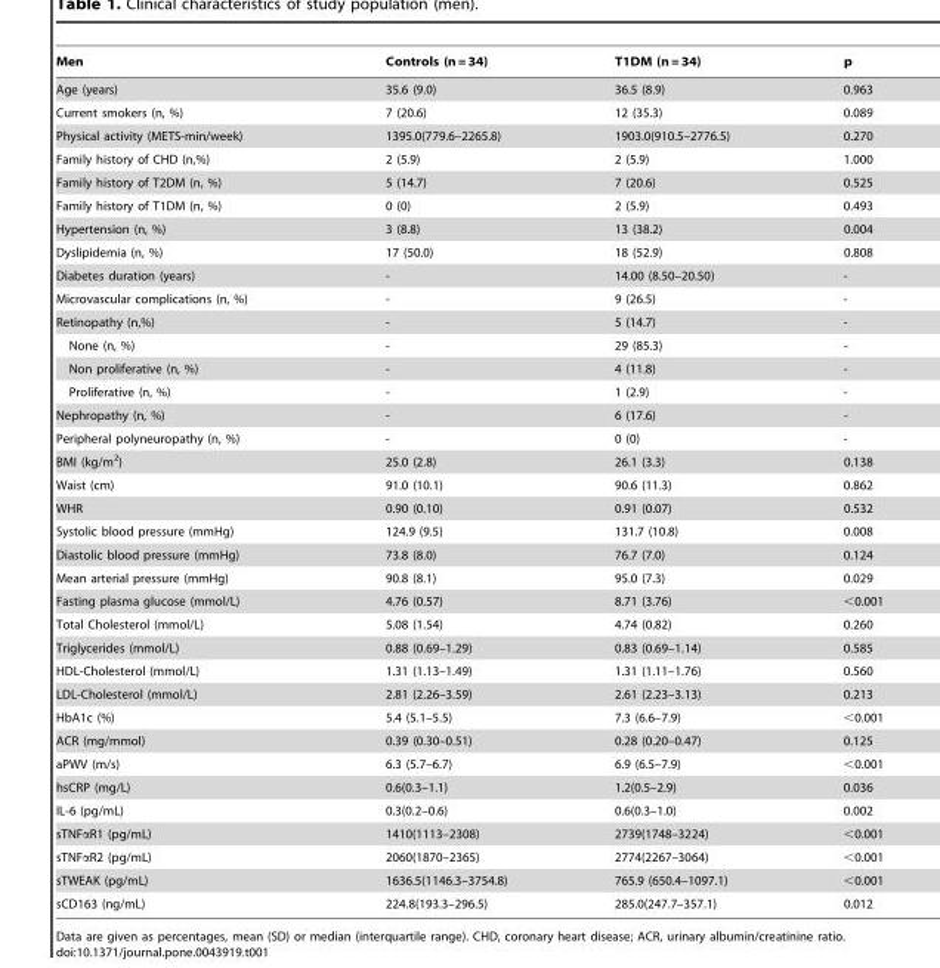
<table><thead><tr><td>Men</td><td>Controls (n = 34)</td><td>T1DM (n = 34)</td><td>p</td></tr></thead><tbody><tr><td>Age (years)</td><td>35.6 (9.0)</td><td>36.5 (8.9)</td><td>0.963</td></tr><tr><td>Current smokers (n, %)</td><td>7 (20.6)</td><td>12 (35.3)</td><td>0.089</td></tr><tr><td>Physical activity (METS-min/week)</td><td>1395.0(779.6–2265.8)</td><td>1903.0(910.5–2776.5)</td><td>0.270</td></tr><tr><td>Family history of CHD (n,%)</td><td>2 (5.9)</td><td>2 (5.9)</td><td>1.000</td></tr><tr><td>Family history of T2DM (n, %)</td><td>5 (14.7)</td><td>7 (20.6)</td><td>0.525</td></tr><tr><td>Family history of T1DM (n, %)</td><td>0 (0)</td><td>2 (5.9)</td><td>0.493</td></tr><tr><td>Hypertension (n, %)</td><td>3 (8.8)</td><td>13 (38.2)</td><td>0.004</td></tr><tr><td>Dyslipidemia (n, %)</td><td>17 (50.0)</td><td>18 (52.9)</td><td>0.808</td></tr><tr><td>Diabetes duration (years)</td><td>-</td><td>14.00 (8.50–20.50)</td><td>-</td></tr><tr><td>Microvascular complications (n, %)</td><td>-</td><td>9 (26.5)</td><td>-</td></tr><tr><td>Retinopathy (n,%)</td><td>-</td><td>5 (14.7)</td><td>-</td></tr><tr><td>None (n, %)</td><td>-</td><td>29 (85.3)</td><td>-</td></tr><tr><td>Non proliferative (n, %)</td><td>-</td><td>4 (11.8)</td><td>-</td></tr><tr><td>Proliferative (n, %)</td><td>-</td><td>1 (2.9)</td><td>-</td></tr><tr><td>Nephropathy (n, %)</td><td>-</td><td>6 (17.6)</td><td>-</td></tr><tr><td>Peripheral polyneuropathy (n, %)</td><td>-</td><td>0 (0)</td><td>-</td></tr><tr><td>BMI (kg/m<sup>2</sup>)</td><td>25.0 (2.8)</td><td>26.1 (3.3)</td><td>0.138</td></tr><tr><td>Waist (cm)</td><td>91.0 (10.1)</td><td>90.6 (11.3)</td><td>0.862</td></tr><tr><td>WHR</td><td>0.90 (0.10)</td><td>0.91 (0.07)</td><td>0.532</td></tr><tr><td>Systolic blood pressure (mmHg)</td><td>124.9 (9.5)</td><td>131.7 (10.8)</td><td>0.008</td></tr><tr><td>Diastolic blood pressure (mmHg)</td><td>73.8 (8.0)</td><td>76.7 (7.0)</td><td>0.124</td></tr><tr><td>Mean arterial pressure (mmHg)</td><td>90.8 (8.1)</td><td>95.0 (7.3)</td><td>0.029</td></tr><tr><td>Fasting plasma glucose (mmol/L)</td><td>4.76 (0.57)</td><td>8.71 (3.76)</td><td>&lt;0.001</td></tr><tr><td>Total Cholesterol (mmol/L)</td><td>5.08 (1.54)</td><td>4.74 (0.82)</td><td>0.260</td></tr><tr><td>Triglycerides (mmol/L)</td><td>0.88 (0.69–1.29)</td><td>0.83 (0.69–1.14)</td><td>0.585</td></tr><tr><td>HDL-Cholesterol (mmol/L)</td><td>1.31 (1.13–1.49)</td><td>1.31 (1.11–1.76)</td><td>0.560</td></tr><tr><td>LDL-Cholesterol (mmol/L)</td><td>2.81 (2.26–3.59)</td><td>2.61 (2.23–3.13)</td><td>0.213</td></tr><tr><td>HbA1c (%)</td><td>5.4 (5.1–5.5)</td><td>7.3 (6.6–7.9)</td><td>&lt;0.001</td></tr><tr><td>ACR (mg/mmol)</td><td>0.39 (0.30–0.51)</td><td>0.28 (0.20–0.47)</td><td>0.125</td></tr><tr><td>aPWV (m/s)</td><td>6.3 (5.7–6.7)</td><td>6.9 (6.5–7.9)</td><td>&lt;0.001</td></tr><tr><td>hsCRP (mg/L)</td><td>0.6(0.3–1.1)</td><td>1.2(0.5–2.9)</td><td>0.036</td></tr><tr><td>IL-6 (pg/mL)</td><td>0.3(0.2–0.6)</td><td>0.6(0.3–1.0)</td><td>0.002</td></tr><tr><td>sTNFαR1 (pg/mL)</td><td>1410(1113–2308)</td><td>2739(1748–3224)</td><td>&lt;0.001</td></tr><tr><td>sTNFαR2 (pg/mL)</td><td>2060(1870–2365)</td><td>2774(2267–3064)</td><td>&lt;0.001</td></tr><tr><td>sTWEAK (pg/mL)</td><td>1636.5(1146.3–3754.8)</td><td>765.9 (650.4–1097.1)</td><td>&lt;0.001</td></tr><tr><td>sCD163 (ng/mL)</td><td>224.8(193.3–296.5)</td><td>285.0(247.7–357.1)</td><td>0.012</td></tr></tbody></table>